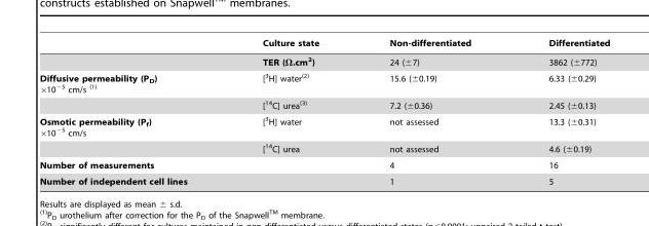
<table><thead><tr><td></td><td>Culture state</td><td>Non-differentiated</td><td>Differentiated</td></tr></thead><tbody><tr><td></td><td>TER (Ω.cm<sup>2</sup>)</td><td>24 (±7)</td><td>3862 (±772)</td></tr><tr><td rowspan="2">Diffusive permeability (P<sub>D</sub>) ×10<sup>−5</sup> cm/s (1)</td><td>[<sup>3</sup>H] water(2)</td><td>15.6 (±0.19)</td><td>6.33 (±0.29)</td></tr><tr><td>[<sup>14</sup>C] urea(3)</td><td>7.2 (±0.36)</td><td>2.45 (±0.13)</td></tr><tr><td rowspan="2">Osmotic permeability (P<sub>f</sub>) ×10<sup>−5</sup> cm/s</td><td>[<sup>3</sup>H] water</td><td>not assessed</td><td>13.3 (±0.31)</td></tr><tr><td>[<sup>14</sup>C] urea</td><td>not assessed</td><td>4.6 (±0.19)</td></tr><tr><td colspan="2">Number of measurements</td><td>4</td><td>16</td></tr><tr><td colspan="2">Number of independent cell lines</td><td>1</td><td>5</td></tr></tbody></table>